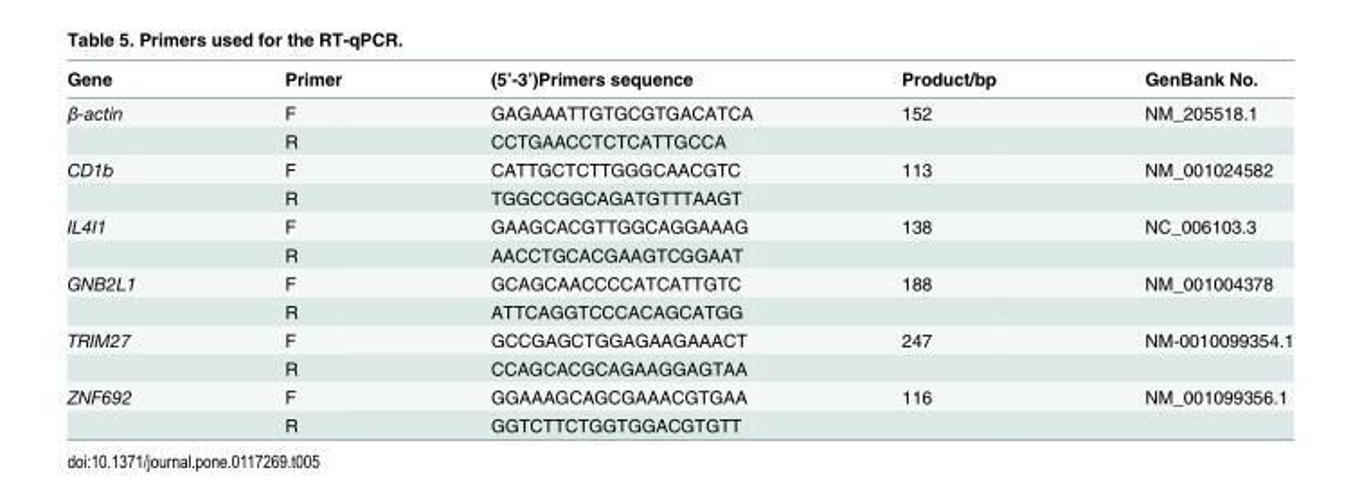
<table><thead><tr><td>Gene</td><td>Primer</td><td>(5’-3’)Primers sequence</td><td>Product/bp</td><td>GenBank No.</td></tr></thead><tbody><tr><td rowspan="2">β-actin</td><td>F</td><td>GAGAAATTGTGCGTGACATCA</td><td>152</td><td>NM_205518.1</td></tr><tr><td>R</td><td>CCTGAACCTCTCATTGCCA</td><td></td><td></td></tr><tr><td rowspan="2">CD1b</td><td>F</td><td>CATTGCTCTTGGGCAACGTC</td><td>113</td><td>NM_001024582</td></tr><tr><td>R</td><td>TGGCCGGCAGATGTTTAAGT</td><td></td><td></td></tr><tr><td rowspan="2">IL4I1</td><td>F</td><td>GAAGCACGTTGGCAGGAAAG</td><td>138</td><td>NC_006103.3</td></tr><tr><td>R</td><td>AACCTGCACGAAGTCGGAAT</td><td></td><td></td></tr><tr><td rowspan="2">GNB2L1</td><td>F</td><td>GCAGCAACCCCATCATTGTC</td><td>188</td><td>NM_001004378</td></tr><tr><td>R</td><td>ATTCAGGTCCCACAGCATGG</td><td></td><td></td></tr><tr><td rowspan="2">TRIM27</td><td>F</td><td>GCCGAGCTGGAGAAGAAACT</td><td>247</td><td>NM-0010099354.1</td></tr><tr><td>R</td><td>CCAGCACGCAGAAGGAGTAA</td><td></td><td></td></tr><tr><td rowspan="2">ZNF692</td><td>F</td><td>GGAAAGCAGCGAAACGTGAA</td><td>116</td><td>NM_001099356.1</td></tr><tr><td>R</td><td>GGTCTTCTGGTGGACGTGTT</td><td></td><td></td></tr></tbody></table>